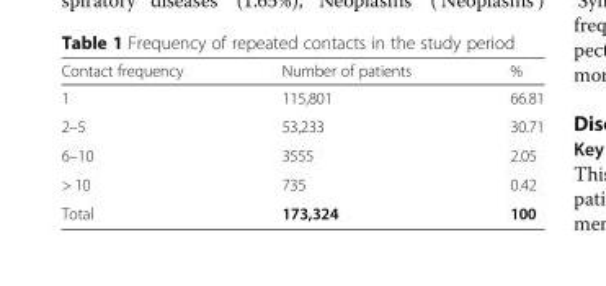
<table><thead><tr><td>Contact frequency</td><td>Number of patients</td><td>%</td></tr></thead><tbody><tr><td>1</td><td>115,801</td><td>66.81</td></tr><tr><td>2–5</td><td>53,233</td><td>30.71</td></tr><tr><td>6–10</td><td>3555</td><td>2.05</td></tr><tr><td>&gt; 10</td><td>735</td><td>0.42</td></tr><tr><td>Total</td><td>173,324</td><td>100</td></tr></tbody></table>